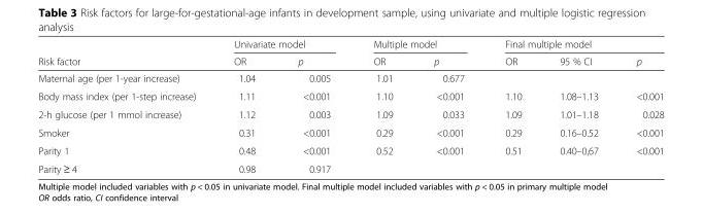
<table><thead><tr><td rowspan="2">Risk factor</td><td colspan="2">Univariate model</td><td colspan="2">Multiple model</td><td colspan="3">Final multiple model</td></tr><tr><td>OR</td><td>p</td><td>OR</td><td>p</td><td>OR</td><td>95 % CI</td><td>p</td></tr></thead><tbody><tr><td>Maternal age (per 1-year increase)</td><td>1.04</td><td>0.005</td><td>1.01</td><td>0.677</td><td></td><td></td><td></td></tr><tr><td>Body mass index (per 1-step increase)</td><td>1.11</td><td>&lt;0.001</td><td>1.10</td><td>&lt;0.001</td><td>1.10</td><td>1.08–1.13</td><td>&lt;0.001</td></tr><tr><td>2-h glucose (per 1 mmol increase)</td><td>1.12</td><td>0.003</td><td>1.09</td><td>0.033</td><td>1.09</td><td>1.01–1.18</td><td>0.028</td></tr><tr><td>Smoker</td><td>0.31</td><td>&lt;0.001</td><td>0.29</td><td>&lt;0.001</td><td>0.29</td><td>0.16–0.52</td><td>&lt;0.001</td></tr><tr><td>Parity 1</td><td>0.48</td><td>&lt;0.001</td><td>0.52</td><td>&lt;0.001</td><td>0.51</td><td>0.40–0,67</td><td>&lt;0.001</td></tr><tr><td>Parity ≥ 4</td><td>0.98</td><td>0.917</td><td></td><td></td><td></td><td></td><td></td></tr></tbody></table>